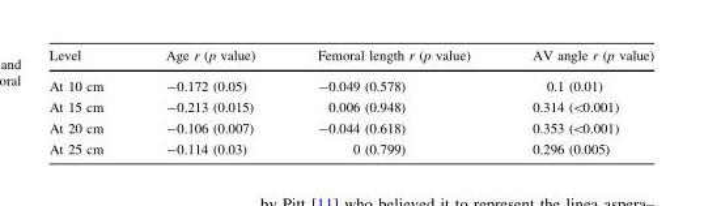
<table><thead><tr><td>Level</td><td>Age r (p value)</td><td>Femoral length r (p value)</td><td>AV angle r (p value)</td></tr></thead><tbody><tr><td>At 10 cm</td><td>-0.172 (0.05)</td><td>-0.049 (0.578)</td><td>0.1 (0.01)</td></tr><tr><td>At 15 cm</td><td>-0.213 (0.015)</td><td>0.006 (0.948)</td><td>0.314 (&lt;0.001)</td></tr><tr><td>At 20 cm</td><td>-0.106 (0.007)</td><td>-0.044 (0.618)</td><td>0.353 (&lt;0.001)</td></tr><tr><td>At 25 cm</td><td>-0.114 (0.03)</td><td>0 (0.799)</td><td>0.296 (0.005)</td></tr></tbody></table>